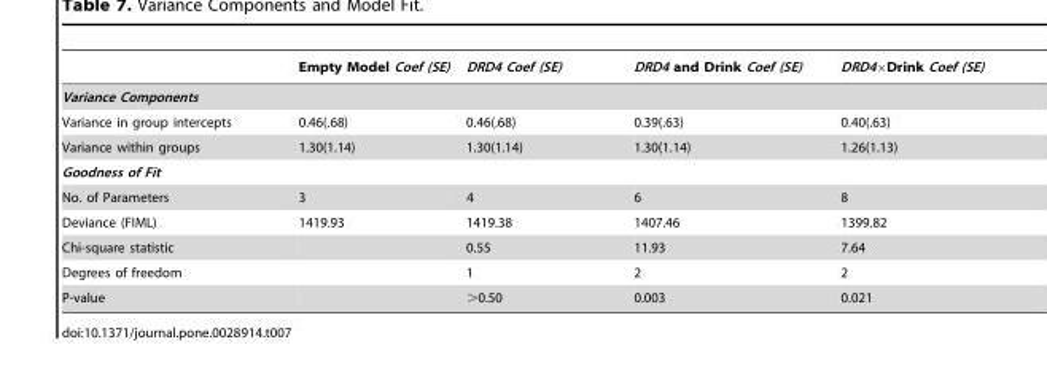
<table><thead><tr><td></td><td>Empty Model Coef (SE)</td><td>DRD4 Coef (SE)</td><td>DRD4 and Drink Coef (SE)</td><td>DRD4×Drink Coef (SE)</td></tr></thead><tbody><tr><td colspan="5">Variance Components</td></tr><tr><td>Variance in group intercepts</td><td>0.46(.68)</td><td>0.46(.68)</td><td>0.39(.63)</td><td>0.40(.63)</td></tr><tr><td>Variance within groups</td><td>1.30(1.14)</td><td>1.30(1.14)</td><td>1.30(1.14)</td><td>1.26(1.13)</td></tr><tr><td colspan="5">Goodness of Fit</td></tr><tr><td>No. of Parameters</td><td>3</td><td>4</td><td>6</td><td>8</td></tr><tr><td>Deviance (FIML)</td><td>1419.93</td><td>1419.38</td><td>1407.46</td><td>1399.82</td></tr><tr><td>Chi-square statistic</td><td></td><td>0.55</td><td>11.93</td><td>7.64</td></tr><tr><td>Degrees of freedom</td><td></td><td>1</td><td>2</td><td>2</td></tr><tr><td>P-value</td><td></td><td>&gt;0.50</td><td>0.003</td><td>0.021</td></tr></tbody></table>